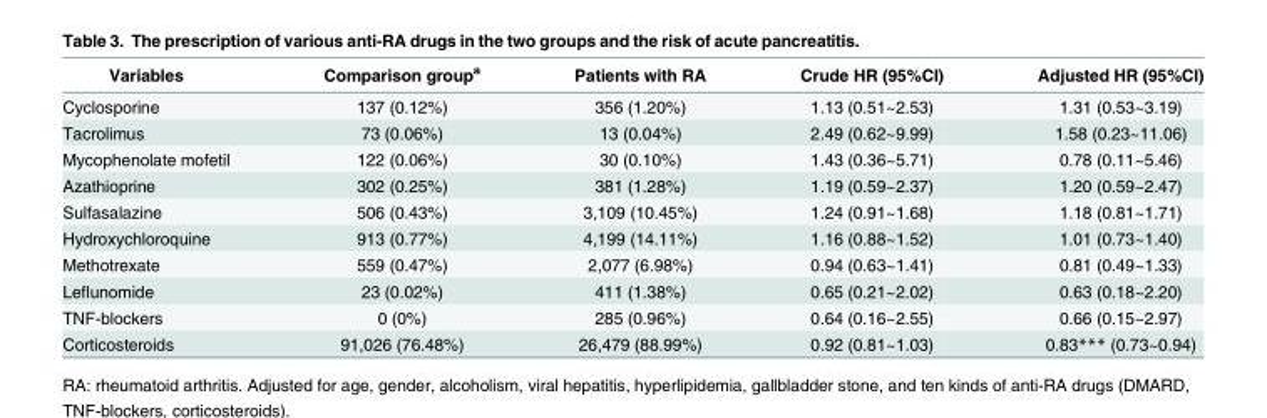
<table><thead><tr><td>Variables</td><td>Comparison group<sup>a</sup></td><td>Patients with RA</td><td>Crude HR (95%CI)</td><td>Adjusted HR (95%CI)</td></tr></thead><tbody><tr><td>Cyclosporine</td><td>137 (0.12%)</td><td>356 (1.20%)</td><td>1.13 (0.51~2.53)</td><td>1.31 (0.53~3.19)</td></tr><tr><td>Tacrolimus</td><td>73 (0.06%)</td><td>13 (0.04%)</td><td>2.49 (0.62~9.99)</td><td>1.58 (0.23~11.06)</td></tr><tr><td>Mycophenolate mofetil</td><td>122 (0.06%)</td><td>30 (0.10%)</td><td>1.43 (0.36~5.71)</td><td>0.78 (0.11~5.46)</td></tr><tr><td>Azathioprine</td><td>302 (0.25%)</td><td>381 (1.28%)</td><td>1.19 (0.59~2.37)</td><td>1.20 (0.59~2.47)</td></tr><tr><td>Sulfasalazine</td><td>506 (0.43%)</td><td>3,109 (10.45%)</td><td>1.24 (0.91~1.68)</td><td>1.18 (0.81~1.71)</td></tr><tr><td>Hydroxychloroquine</td><td>913 (0.77%)</td><td>4,199 (14.11%)</td><td>1.16 (0.88~1.52)</td><td>1.01 (0.73~1.40)</td></tr><tr><td>Methotrexate</td><td>559 (0.47%)</td><td>2,077 (6.98%)</td><td>0.94 (0.63~1.41)</td><td>0.81 (0.49~1.33)</td></tr><tr><td>Leflunomide</td><td>23 (0.02%)</td><td>411 (1.38%)</td><td>0.65 (0.21~2.02)</td><td>0.63 (0.18~2.20)</td></tr><tr><td>TNF-blockers</td><td>0 (0%)</td><td>285 (0.96%)</td><td>0.64 (0.16~2.55)</td><td>0.66 (0.15~2.97)</td></tr><tr><td>Corticosteroids</td><td>91,026 (76.48%)</td><td>26,479 (88.99%)</td><td>0.92 (0.81~1.03)</td><td>0.83*** (0.73~0.94)</td></tr></tbody></table>